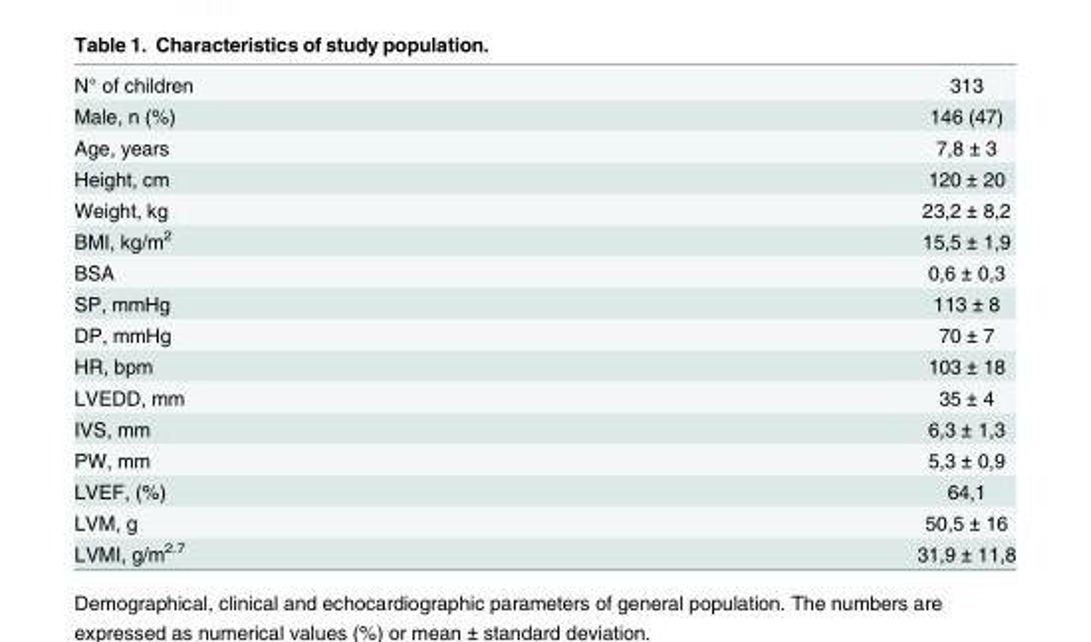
<table><tbody><tr><td>N° of children</td><td>313</td></tr><tr><td>Male, n (%)</td><td>146 (47)</td></tr><tr><td>Age, years</td><td>7,8 ± 3</td></tr><tr><td>Height, cm</td><td>120 ± 20</td></tr><tr><td>Weight, kg</td><td>23,2 ± 8,2</td></tr><tr><td>BMI, kg/m<sup>2</sup></td><td>15,5 ± 1,9</td></tr><tr><td>BSA</td><td>0,6 ± 0,3</td></tr><tr><td>SP, mmHg</td><td>113 ± 8</td></tr><tr><td>DP, mmHg</td><td>70 ± 7</td></tr><tr><td>HR, bpm</td><td>103 ± 18</td></tr><tr><td>LVEDD, mm</td><td>35 ± 4</td></tr><tr><td>IVS, mm</td><td>6,3 ± 1,3</td></tr><tr><td>PW, mm</td><td>5,3 ± 0,9</td></tr><tr><td>LVEF, (%)</td><td>64,1</td></tr><tr><td>LVM, g</td><td>50,5 ± 16</td></tr><tr><td>LVMI, g/m<sup>2.7</sup></td><td>31,9 ± 11,8</td></tr></tbody></table>